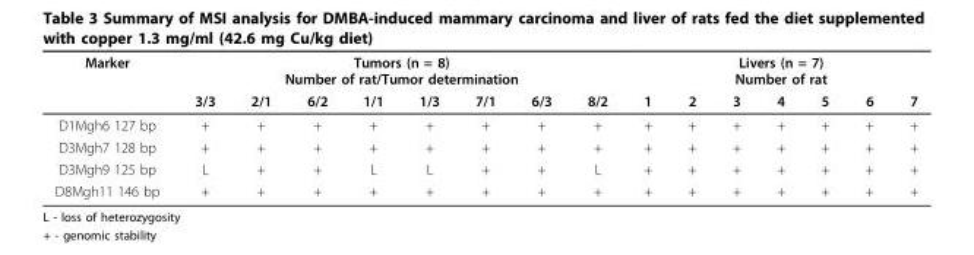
<table><thead><tr><td rowspan="2">Marker</td><td colspan="8">Tumors (n = 8) Number of rat/Tumor determination</td><td colspan="7">Livers (n = 7) Number of rat</td></tr><tr><td>3/3</td><td>2/1</td><td>6/2</td><td>1/1</td><td>1/3</td><td>7/1</td><td>6/3</td><td>8/2</td><td>1</td><td>2</td><td>3</td><td>4</td><td>5</td><td>6</td><td>7</td></tr></thead><tbody><tr><td>D1Mgh6 127 bp</td><td>+</td><td>+</td><td>+</td><td>+</td><td>+</td><td>+</td><td>+</td><td>+</td><td>+</td><td>+</td><td>+</td><td>+</td><td>+</td><td>+</td><td>+</td></tr><tr><td>D3Mgh7 128 bp</td><td>+</td><td>+</td><td>+</td><td>+</td><td>+</td><td>+</td><td>+</td><td>+</td><td>+</td><td>+</td><td>+</td><td>+</td><td>+</td><td>+</td><td>+</td></tr><tr><td>D3Mgh9 125 bp</td><td>L</td><td>+</td><td>+</td><td>L</td><td>L</td><td>+</td><td>+</td><td>L</td><td>+</td><td>+</td><td>+</td><td>+</td><td>+</td><td>+</td><td>+</td></tr><tr><td>D8Mgh11 146 bp</td><td>+</td><td>+</td><td>+</td><td>+</td><td>+</td><td>+</td><td>+</td><td>+</td><td>+</td><td>+</td><td>+</td><td>+</td><td>+</td><td>+</td><td>+</td></tr></tbody></table>